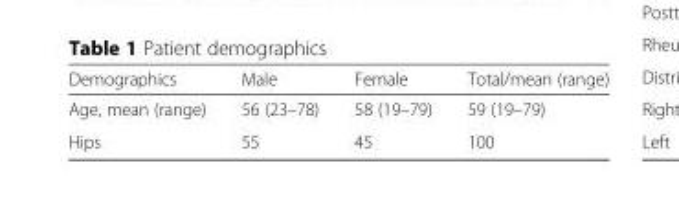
<table><thead><tr><td>Demographics</td><td>Male</td><td>Female</td><td>Total/mean (range)</td></tr></thead><tbody><tr><td>Age, mean (range)</td><td>56 (23–78)</td><td>58 (19–79)</td><td>59 (19–79)</td></tr><tr><td>Hips</td><td>55</td><td>45</td><td>100</td></tr></tbody></table>